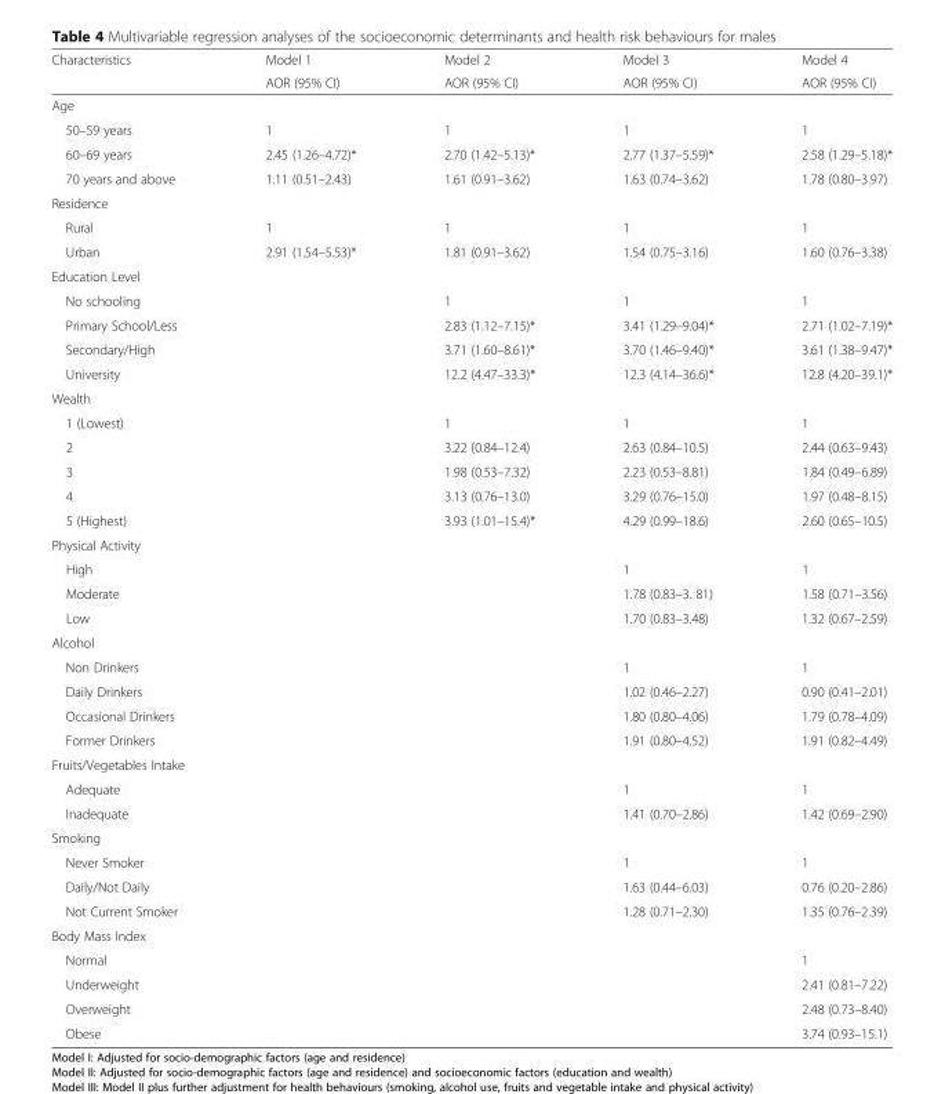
<table><thead><tr><td rowspan="2">Characteristics</td><td rowspan="2">Model 1 AOR (95% CI)</td><td rowspan="2">Model 2 AOR (95% CI)</td><td rowspan="2">Model 3 AOR (95% CI)</td><td rowspan="2">Model 4 AOR (95% CI)</td></tr><tr></tr></thead><tbody><tr><td colspan="5">Age</td></tr><tr><td>50–59 years</td><td>1</td><td>1</td><td>1</td><td>1</td></tr><tr><td>60–69 years</td><td>2.45 (1.26–4.72)*</td><td>2.70 (1.42–5.13)*</td><td>2.77 (1.37–5.59)*</td><td>2.58 (1.29–5.18)*</td></tr><tr><td>70 years and above</td><td>1.11 (0.51–2.43)</td><td>1.61 (0.91–3.62)</td><td>1.63 (0.74–3.62)</td><td>1.78 (0.80–3.97)</td></tr><tr><td colspan="5">Residence</td></tr><tr><td>Rural</td><td>1</td><td>1</td><td>1</td><td>1</td></tr><tr><td>Urban</td><td>2.91 (1.54–5.53)*</td><td>1.81 (0.91–3.62)</td><td>1.54 (0.75–3.16)</td><td>1.60 (0.76–3.38)</td></tr><tr><td colspan="5">Education Level</td></tr><tr><td>No schooling</td><td></td><td>1</td><td>1</td><td>1</td></tr><tr><td>Primary School/Less</td><td></td><td>2.83 (1.12–7.15)*</td><td>3.41 (1.29–9.04)*</td><td>2.71 (1.02–7.19)*</td></tr><tr><td>Secondary/High</td><td></td><td>3.71 (1.60–8.61)*</td><td>3.70 (1.46–9.40)*</td><td>3.61 (1.38–9.47)*</td></tr><tr><td>University</td><td></td><td>12.2 (4.47–33.3)*</td><td>12.3 (4.14–36.6)*</td><td>12.8 (4.20–39.1)*</td></tr><tr><td colspan="5">Wealth</td></tr><tr><td>1 (Lowest)</td><td></td><td>1</td><td>1</td><td>1</td></tr><tr><td>2</td><td></td><td>3.22 (0.84–12.4)</td><td>2.63 (0.84–10.5)</td><td>2.44 (0.63–9.43)</td></tr><tr><td>3</td><td></td><td>1.98 (0.53–7.32)</td><td>2.23 (0.53–8.81)</td><td>1.84 (0.49–6.89)</td></tr><tr><td>4</td><td></td><td>3.13 (0.76–13.0)</td><td>3.29 (0.76–15.0)</td><td>1.97 (0.48–8.15)</td></tr><tr><td>5 (Highest)</td><td></td><td>3.93 (1.01–15.4)*</td><td>4.29 (0.99–18.6)</td><td>2.60 (0.65–10.5)</td></tr><tr><td colspan="5">Physical Activity</td></tr><tr><td>High</td><td></td><td></td><td>1</td><td>1</td></tr><tr><td>Moderate</td><td></td><td></td><td>1.78 (0.83–3. 81)</td><td>1.58 (0.71–3.56)</td></tr><tr><td>Low</td><td></td><td></td><td>1.70 (0.83–3.48)</td><td>1.32 (0.67–2.59)</td></tr><tr><td colspan="5">Alcohol</td></tr><tr><td>Non Drinkers</td><td></td><td></td><td>1</td><td>1</td></tr><tr><td>Daily Drinkers</td><td></td><td></td><td>1.02 (0.46–2.27)</td><td>0.90 (0.41–2.01)</td></tr><tr><td>Occasional Drinkers</td><td></td><td></td><td>1.80 (0.80–4.06)</td><td>1.79 (0.78–4.09)</td></tr><tr><td>Former Drinkers</td><td></td><td></td><td>1.91 (0.80–4.52)</td><td>1.91 (0.82–4.49)</td></tr><tr><td colspan="5">Fruits/Vegetables Intake</td></tr><tr><td>Adequate</td><td></td><td></td><td>1</td><td>1</td></tr><tr><td>Inadequate</td><td></td><td></td><td>1.41 (0.70–2.86)</td><td>1.42 (0.69–2.90)</td></tr><tr><td colspan="5">Smoking</td></tr><tr><td>Never Smoker</td><td></td><td></td><td>1</td><td>1</td></tr><tr><td>Daily/Not Daily</td><td></td><td></td><td>1.63 (0.44–6.03)</td><td>0.76 (0.20–2.86)</td></tr><tr><td>Not Current Smoker</td><td></td><td></td><td>1.28 (0.71–2.30)</td><td>1.35 (0.76–2.39)</td></tr><tr><td colspan="5">Body Mass Index</td></tr><tr><td>Normal</td><td></td><td></td><td></td><td>1</td></tr><tr><td>Underweight</td><td></td><td></td><td></td><td>2.41 (0.81–7.22)</td></tr><tr><td>Overweight</td><td></td><td></td><td></td><td>2.48 (0.73–8.40)</td></tr><tr><td>Obese</td><td></td><td></td><td></td><td>3.74 (0.93–15.1)</td></tr></tbody></table>